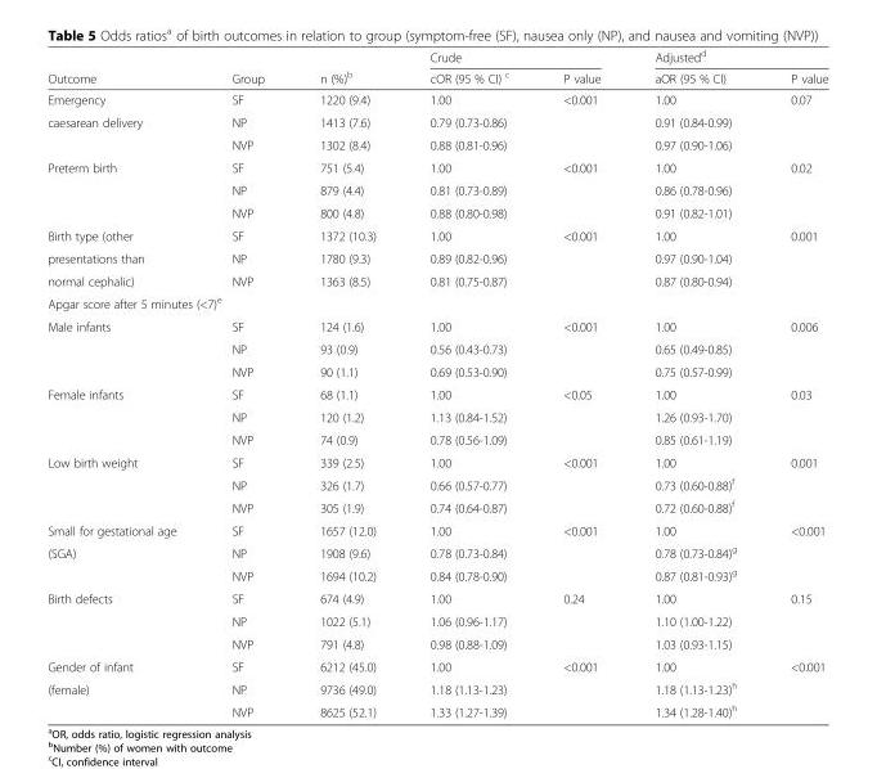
<table><thead><tr><td rowspan="2">Outcome</td><td rowspan="2">Group</td><td rowspan="2">n (%)<sup>b</sup></td><td colspan="2">Crude</td><td colspan="2">Adjusted<sup>d</sup></td></tr><tr><td>cOR (95 % CI) <sup>c</sup></td><td>P value</td><td>aOR (95 % CI)</td><td>P value</td></tr></thead><tbody><tr><td>Emergency</td><td>SF</td><td>1220 (9.4)</td><td>1.00</td><td rowspan="3">&lt;0.001</td><td>1.00</td><td rowspan="3">0.07</td></tr><tr><td rowspan="2">caesarean delivery</td><td>NP</td><td>1413 (7.6)</td><td>0.79 (0.73-0.86)</td><td>0.91 (0.84-0.99)</td></tr><tr><td>NVP</td><td>1302 (8.4)</td><td>0.88 (0.81-0.96)</td><td>0.97 (0.90-1.06)</td></tr><tr><td rowspan="3">Preterm birth</td><td>SF</td><td>751 (5.4)</td><td>1.00</td><td rowspan="3">&lt;0.001</td><td>1.00</td><td rowspan="3">0.02</td></tr><tr><td>NP</td><td>879 (4.4)</td><td>0.81 (0.73-0.89)</td><td>0.86 (0.78-0.96)</td></tr><tr><td>NVP</td><td>800 (4.8)</td><td>0.88 (0.80-0.98)</td><td>0.91 (0.82-1.01)</td></tr><tr><td>Birth type (other</td><td>SF</td><td>1372 (10.3)</td><td>1.00</td><td rowspan="3">&lt;0.001</td><td>1.00</td><td rowspan="3">0.001</td></tr><tr><td>presentations than</td><td>NP</td><td>1780 (9.3)</td><td>0.89 (0.82-0.96)</td><td>0.97 (0.90-1.04)</td></tr><tr><td>normal cephalic)</td><td>NVP</td><td>1363 (8.5)</td><td>0.81 (0.75-0.87)</td><td>0.87 (0.80-0.94)</td></tr><tr><td colspan="7">Apgar score after 5 minutes (&lt;7)<sup>e</sup></td></tr><tr><td rowspan="3">Male infants</td><td>SF</td><td>124 (1.6)</td><td>1.00</td><td>&lt;0.001</td><td>1.00</td><td rowspan="3">0.006</td></tr><tr><td>NP</td><td>93 (0.9)</td><td>0.56 (0.43-0.73)</td><td></td><td>0.65 (0.49-0.85)</td></tr><tr><td>NVP</td><td>90 (1.1)</td><td>0.69 (0.53-0.90)</td><td></td><td>0.75 (0.57-0.99)</td></tr><tr><td rowspan="3">Female infants</td><td>SF</td><td>68 (1.1)</td><td>1.00</td><td rowspan="3">&lt;0.05</td><td>1.00</td><td rowspan="3">0.03</td></tr><tr><td>NP</td><td>120 (1.2)</td><td>1.13 (0.84-1.52)</td><td>1.26 (0.93-1.70)</td></tr><tr><td>NVP</td><td>74 (0.9)</td><td>0.78 (0.56-1.09)</td><td>0.85 (0.61-1.19)</td></tr><tr><td rowspan="3">Low birth weight</td><td>SF</td><td>339 (2.5)</td><td>1.00</td><td rowspan="3">&lt;0.001</td><td>1.00</td><td rowspan="3">0.001</td></tr><tr><td>NP</td><td>326 (1.7)</td><td>0.66 (0.57-0.77)</td><td>0.73 (0.60-0.88)<sup>f</sup></td></tr><tr><td>NVP</td><td>305 (1.9)</td><td>0.74 (0.64-0.87)</td><td>0.72 (0.60-0.88)<sup>f</sup></td></tr><tr><td>Small for gestational age</td><td>SF</td><td>1657 (12.0)</td><td>1.00</td><td>&lt;0.001</td><td>1.00</td><td rowspan="3">&lt;0.001</td></tr><tr><td rowspan="2">(SGA)</td><td>NP</td><td>1908 (9.6)</td><td>0.78 (0.73-0.84)</td><td></td><td>0.78 (0.73-0.84)<sup>g</sup></td></tr><tr><td>NVP</td><td>1694 (10.2)</td><td>0.84 (0.78-0.90)</td><td></td><td>0.87 (0.81-0.93)<sup>g</sup></td></tr><tr><td rowspan="3">Birth defects</td><td>SF</td><td>674 (4.9)</td><td>1.00</td><td>0.24</td><td>1.00</td><td>0.15</td></tr><tr><td>NP</td><td>1022 (5.1)</td><td>1.06 (0.96-1.17)</td><td></td><td>1.10 (1.00-1.22)</td><td></td></tr><tr><td>NVP</td><td>791 (4.8)</td><td>0.98 (0.88-1.09)</td><td></td><td>1.03 (0.93-1.15)</td><td></td></tr><tr><td>Gender of infant</td><td>SF</td><td>6212 (45.0)</td><td>1.00</td><td rowspan="3">&lt;0.001</td><td>1.00</td><td rowspan="3">&lt;0.001</td></tr><tr><td rowspan="2">(female)</td><td>NP</td><td>9736 (49.0)</td><td>1.18 (1.13-1.23)</td><td>1.18 (1.13-1.23)<sup>h</sup></td></tr><tr><td>NVP</td><td>8625 (52.1)</td><td>1.33 (1.27-1.39)</td><td>1.34 (1.28-1.40)<sup>h</sup></td></tr></tbody></table>